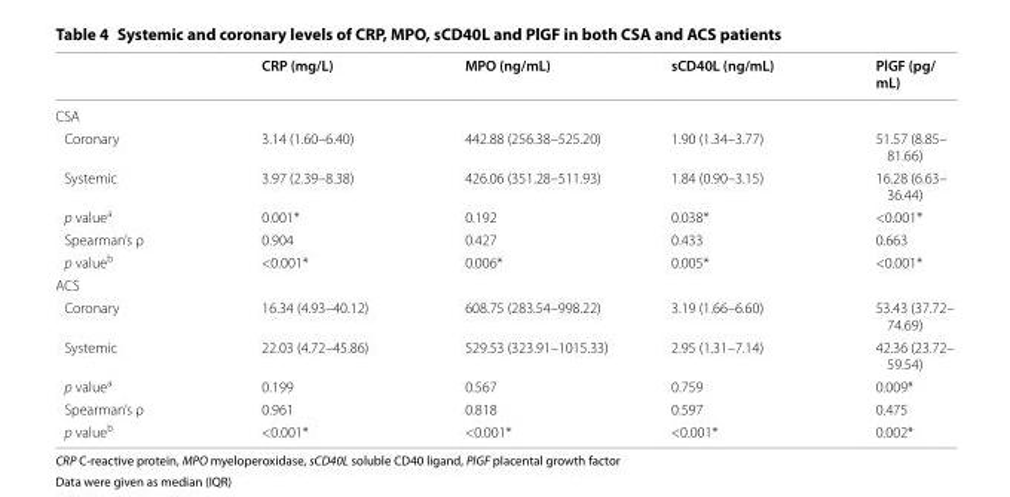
<table><thead><tr><td></td><td>CRP (mg/L)</td><td>MPO (ng/mL)</td><td>sCD40L (ng/mL)</td><td>PlGF (pg/ mL)</td></tr></thead><tbody><tr><td colspan="5">CSA</td></tr><tr><td>Coronary</td><td>3.14 (1.60–6.40)</td><td>442.88 (256.38–525.20)</td><td>1.90 (1.34–3.77)</td><td>51.57 (8.85– 81.66)</td></tr><tr><td>Systemic</td><td>3.97 (2.39–8.38)</td><td>426.06 (351.28–511.93)</td><td>1.84 (0.90–3.15)</td><td>16.28 (6.63– 36.44)</td></tr><tr><td>p value<sup>a</sup></td><td>0.001*</td><td>0.192</td><td>0.038*</td><td>&lt;0.001*</td></tr><tr><td>Spearman’s ρ</td><td>0.904</td><td>0.427</td><td>0.433</td><td>0.663</td></tr><tr><td>p value<sup>b</sup></td><td>&lt;0.001*</td><td>0.006*</td><td>0.005*</td><td>&lt;0.001*</td></tr><tr><td colspan="5">ACS</td></tr><tr><td>Coronary</td><td>16.34 (4.93–40.12)</td><td>608.75 (283.54–998.22)</td><td>3.19 (1.66–6.60)</td><td>53.43 (37.72– 74.69)</td></tr><tr><td>Systemic</td><td>22.03 (4.72–45.86)</td><td>529.53 (323.91–1015.33)</td><td>2.95 (1.31–7.14)</td><td>42.36 (23.72– 59.54)</td></tr><tr><td>p value<sup>a</sup></td><td>0.199</td><td>0.567</td><td>0.759</td><td>0.009*</td></tr><tr><td>Spearman’s ρ</td><td>0.961</td><td>0.818</td><td>0.597</td><td>0.475</td></tr><tr><td>p value<sup>b</sup></td><td>&lt;0.001*</td><td>&lt;0.001*</td><td>&lt;0.001*</td><td>0.002*</td></tr></tbody></table>